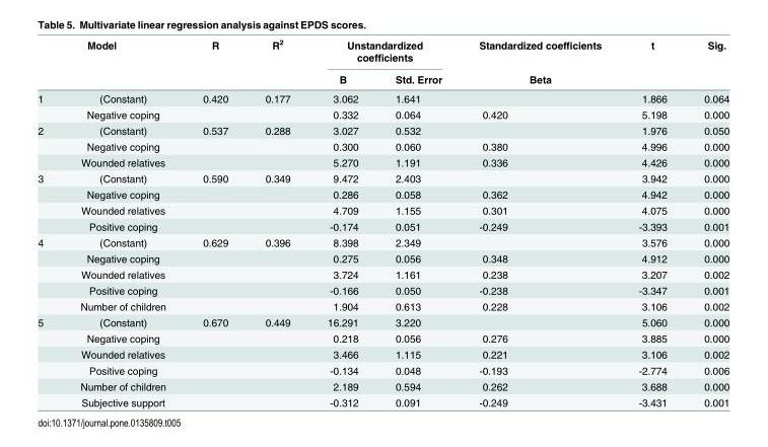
<table><thead><tr><td rowspan="2" colspan="2">Model</td><td rowspan="3">R 0.420</td><td rowspan="3">R<sup>2</sup> 0.177</td><td colspan="2">Unstandardized coefficients</td><td rowspan="3">Standardized coefficients Beta</td><td rowspan="3">t 1.866</td><td rowspan="3">Sig. 0.064</td></tr><tr><td rowspan="2">B 3.062</td><td rowspan="2">Std. Error 1.641</td></tr><tr><td>1</td><td>(Constant)</td></tr></thead><tbody><tr><td></td><td>Negative coping</td><td></td><td></td><td>0.332</td><td>0.064</td><td>0.420</td><td>5.198</td><td>0.000</td></tr><tr><td rowspan="3">2</td><td>(Constant)</td><td>0.537</td><td>0.288</td><td>3.027</td><td>0.532</td><td></td><td>1.976</td><td>0.050</td></tr><tr><td>Negative coping</td><td></td><td></td><td>0.300</td><td>0.060</td><td>0.380</td><td>4.996</td><td>0.000</td></tr><tr><td>Wounded relatives</td><td></td><td></td><td>5.270</td><td>1.191</td><td>0.336</td><td>4.426</td><td>0.000</td></tr><tr><td rowspan="4">3</td><td>(Constant)</td><td>0.590</td><td>0.349</td><td>9.472</td><td>2.403</td><td></td><td>3.942</td><td>0.000</td></tr><tr><td>Negative coping</td><td></td><td></td><td>0.286</td><td>0.058</td><td>0.362</td><td>4.942</td><td>0.000</td></tr><tr><td>Wounded relatives</td><td></td><td></td><td>4.709</td><td>1.155</td><td>0.301</td><td>4.075</td><td>0.000</td></tr><tr><td>Positive coping</td><td></td><td></td><td>-0.174</td><td>0.051</td><td>-0.249</td><td>-3.393</td><td>0.001</td></tr><tr><td rowspan="5">4</td><td>(Constant)</td><td>0.629</td><td>0.396</td><td>8.398</td><td>2.349</td><td></td><td>3.576</td><td>0.000</td></tr><tr><td>Negative coping</td><td></td><td></td><td>0.275</td><td>0.056</td><td>0.348</td><td>4.912</td><td>0.000</td></tr><tr><td>Wounded relatives</td><td></td><td></td><td>3.724</td><td>1.161</td><td>0.238</td><td>3.207</td><td>0.002</td></tr><tr><td>Positive coping</td><td></td><td></td><td>-0.166</td><td>0.050</td><td>-0.238</td><td>-3.347</td><td>0.001</td></tr><tr><td>Number of children</td><td></td><td></td><td>1.904</td><td>0.613</td><td>0.228</td><td>3.106</td><td>0.002</td></tr><tr><td rowspan="6">5</td><td>(Constant)</td><td>0.670</td><td>0.449</td><td>16.291</td><td>3.220</td><td></td><td>5.060</td><td>0.000</td></tr><tr><td>Negative coping</td><td></td><td></td><td>0.218</td><td>0.056</td><td>0.276</td><td>3.885</td><td>0.000</td></tr><tr><td>Wounded relatives</td><td></td><td></td><td>3.466</td><td>1.115</td><td>0.221</td><td>3.106</td><td>0.002</td></tr><tr><td>Positive coping</td><td></td><td></td><td>-0.134</td><td>0.048</td><td>-0.193</td><td>-2.774</td><td>0.006</td></tr><tr><td>Number of children</td><td></td><td></td><td>2.189</td><td>0.594</td><td>0.262</td><td>3.688</td><td>0.000</td></tr><tr><td>Subjective support</td><td></td><td></td><td>-0.312</td><td>0.091</td><td>-0.249</td><td>-3.431</td><td>0.001</td></tr></tbody></table>